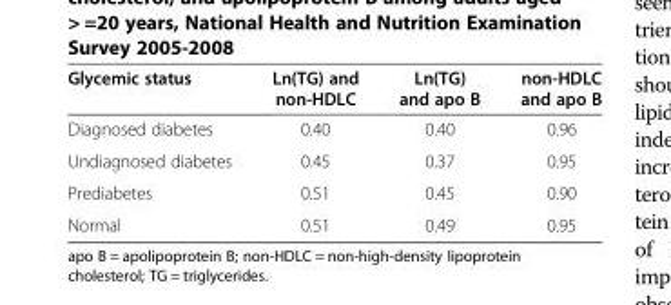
<table><thead><tr><td>Glycemic status</td><td>Ln(TG) and non-HDLC</td><td>Ln(TG) and apo B</td><td>non-HDLC and apo B</td></tr></thead><tbody><tr><td>Diagnosed diabetes</td><td>0.40</td><td>0.40</td><td>0.96</td></tr><tr><td>Undiagnosed diabetes</td><td>0.45</td><td>0.37</td><td>0.95</td></tr><tr><td>Prediabetes</td><td>0.51</td><td>0.45</td><td>0.90</td></tr><tr><td>Normal</td><td>0.51</td><td>0.49</td><td>0.95</td></tr></tbody></table>